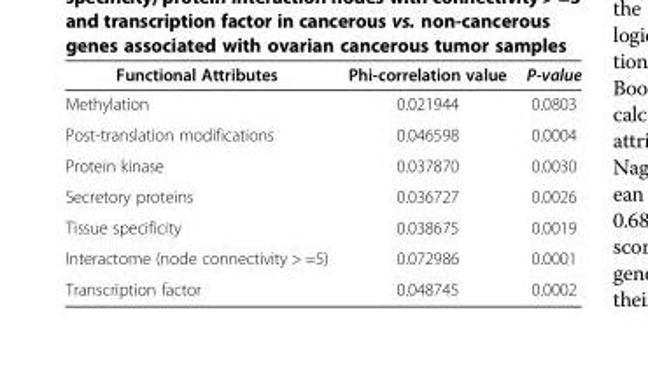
<table><thead><tr><td>Functional Attributes</td><td>Phi-correlation value</td><td>P-value</td></tr></thead><tbody><tr><td>Methylation</td><td>0.021944</td><td>0.0803</td></tr><tr><td>Post-translation modifications</td><td>0.046598</td><td>0.0004</td></tr><tr><td>Protein kinase</td><td>0.037870</td><td>0.0030</td></tr><tr><td>Secretory proteins</td><td>0.036727</td><td>0.0026</td></tr><tr><td>Tissue specificity</td><td>0.038675</td><td>0.0019</td></tr><tr><td>Interactome (node connectivity &gt; =5)</td><td>0.072986</td><td>0.0001</td></tr><tr><td>Transcription factor</td><td>0.048745</td><td>0.0002</td></tr></tbody></table>